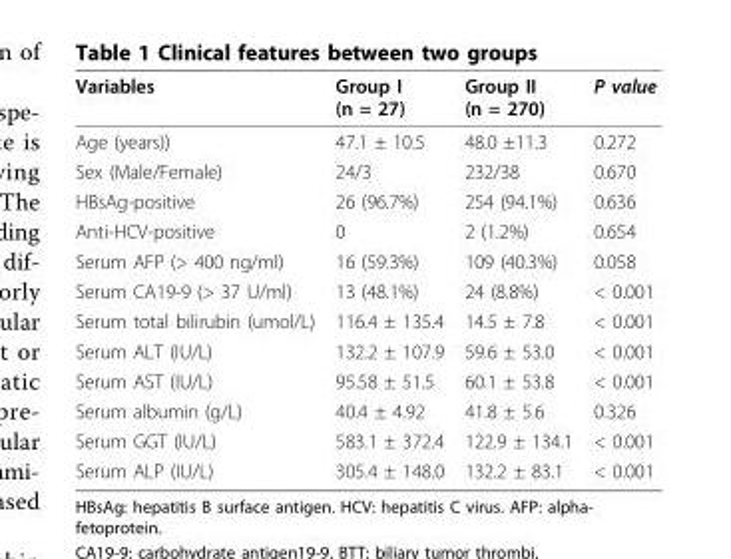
<table><thead><tr><td>Variables</td><td>Group I (n = 27)</td><td>Group II (n = 270)</td><td>P value</td></tr></thead><tbody><tr><td>Age (years))</td><td>47.1 ± 10.5</td><td>48.0 ±11.3</td><td>0.272</td></tr><tr><td>Sex (Male/Female)</td><td>24/3</td><td>232/38</td><td>0.670</td></tr><tr><td>HBsAg-positive</td><td>26 (96.7%)</td><td>254 (94.1%)</td><td>0.636</td></tr><tr><td>Anti-HCV-positive</td><td>0</td><td>2 (1.2%)</td><td>0.654</td></tr><tr><td>Serum AFP (&gt; 400 ng/ml)</td><td>16 (59.3%)</td><td>109 (40.3%)</td><td>0.058</td></tr><tr><td>Serum CA19-9 (&gt; 37 U/ml)</td><td>13 (48.1%)</td><td>24 (8.8%)</td><td>&lt; 0.001</td></tr><tr><td>Serum total bilirubin (umol/L)</td><td>116.4 ± 135.4</td><td>14.5 ± 7.8</td><td>&lt; 0.001</td></tr><tr><td>Serum ALT (IU/L)</td><td>132.2 ± 107.9</td><td>59.6 ± 53.0</td><td>&lt; 0.001</td></tr><tr><td>Serum AST (IU/L)</td><td>95.58 ± 51.5</td><td>60.1 ± 53.8</td><td>&lt; 0.001</td></tr><tr><td>Serum albumin (g/L)</td><td>40.4 ± 4.92</td><td>41.8 ± 5.6</td><td>0.326</td></tr><tr><td>Serum GGT (IU/L)</td><td>583.1 ± 372.4</td><td>122.9 ± 134.1</td><td>&lt; 0.001</td></tr><tr><td>Serum ALP (IU/L)</td><td>305.4 ± 148.0</td><td>132.2 ± 83.1</td><td>&lt; 0.001</td></tr></tbody></table>